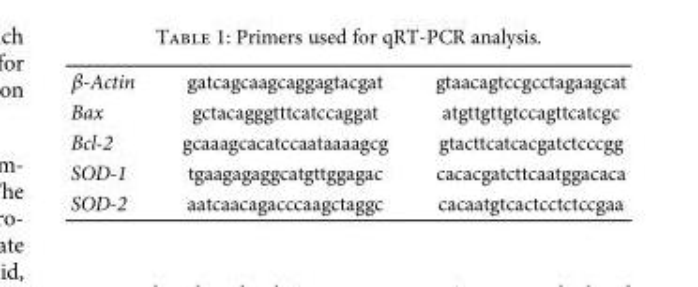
<table><tbody><tr><td>β-Actin</td><td>gatcagcaagcaggagtacgat</td><td>gtaacagtccgcctagaagcat</td></tr><tr><td>Bax</td><td>gctacagggtttcatccaggat</td><td>atgttgttgtccagttcatcgc</td></tr><tr><td>Bcl-2</td><td>gcaaagcacatccaataaaagcg</td><td>gtacttcatcacgatctcccgg</td></tr><tr><td>SOD-1</td><td>tgaagagaggcatgttggagac</td><td>cacacgatcttcaatggacaca</td></tr><tr><td>SOD-2</td><td>aatcaacagacccaagctaggc</td><td>cacaatgtcactcctctccgaa</td></tr></tbody></table>